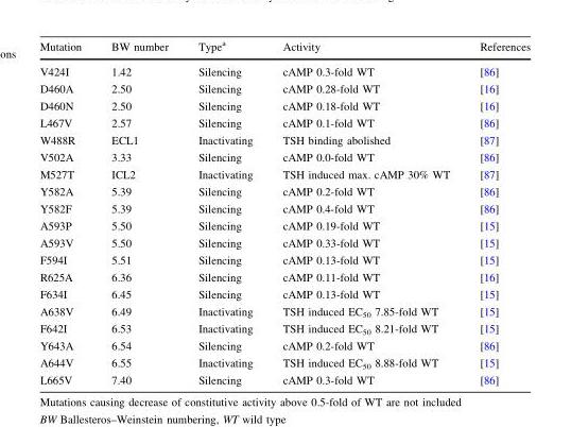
<table><thead><tr><td>Mutation</td><td>BW number</td><td>Type<sup>a</sup></td><td>Activity</td><td>References</td></tr></thead><tbody><tr><td>V424I</td><td>1.42</td><td>Silencing</td><td>cAMP 0.3-fold WT</td><td>[86]</td></tr><tr><td>D460A</td><td>2.50</td><td>Silencing</td><td>cAMP 0.28-fold WT</td><td>[16]</td></tr><tr><td>D460N</td><td>2.50</td><td>Silencing</td><td>cAMP 0.18-fold WT</td><td>[16]</td></tr><tr><td>L467V</td><td>2.57</td><td>Silencing</td><td>cAMP 0.1-fold WT</td><td>[86]</td></tr><tr><td>W488R</td><td>ECL1</td><td>Inactivating</td><td>TSH binding abolished</td><td>[87]</td></tr><tr><td>V502A</td><td>3.33</td><td>Silencing</td><td>cAMP 0.0-fold WT</td><td>[86]</td></tr><tr><td>M527T</td><td>ICL2</td><td>Inactivating</td><td>TSH induced max. cAMP 30% WT</td><td>[87]</td></tr><tr><td>Y582A</td><td>5.39</td><td>Silencing</td><td>cAMP 0.2-fold WT</td><td>[86]</td></tr><tr><td>Y582F</td><td>5.39</td><td>Silencing</td><td>cAMP 0.4-fold WT</td><td>[86]</td></tr><tr><td>A593P</td><td>5.50</td><td>Silencing</td><td>cAMP 0.19-fold WT</td><td>[15]</td></tr><tr><td>A593V</td><td>5.50</td><td>Silencing</td><td>cAMP 0.33-fold WT</td><td>[15]</td></tr><tr><td>F594I</td><td>5.51</td><td>Silencing</td><td>cAMP 0.13-fold WT</td><td>[15]</td></tr><tr><td>R625A</td><td>6.36</td><td>Silencing</td><td>cAMP 0.11-fold WT</td><td>[16]</td></tr><tr><td>F634I</td><td>6.45</td><td>Silencing</td><td>cAMP 0.13-fold WT</td><td>[15]</td></tr><tr><td>A638V</td><td>6.49</td><td>Inactivating</td><td>TSH induced EC<sub>50</sub> 7.85-fold WT</td><td>[15]</td></tr><tr><td>F642I</td><td>6.53</td><td>Inactivating</td><td>TSH induced EC<sub>50</sub> 8.21-fold WT</td><td>[15]</td></tr><tr><td>Y643A</td><td>6.54</td><td>Silencing</td><td>cAMP 0.2-fold WT</td><td>[86]</td></tr><tr><td>A644V</td><td>6.55</td><td>Inactivating</td><td>TSH induced EC<sub>50</sub> 8.88-fold WT</td><td>[15]</td></tr><tr><td>L665V</td><td>7.40</td><td>Silencing</td><td>cAMP 0.3-fold WT</td><td>[86]</td></tr></tbody></table>